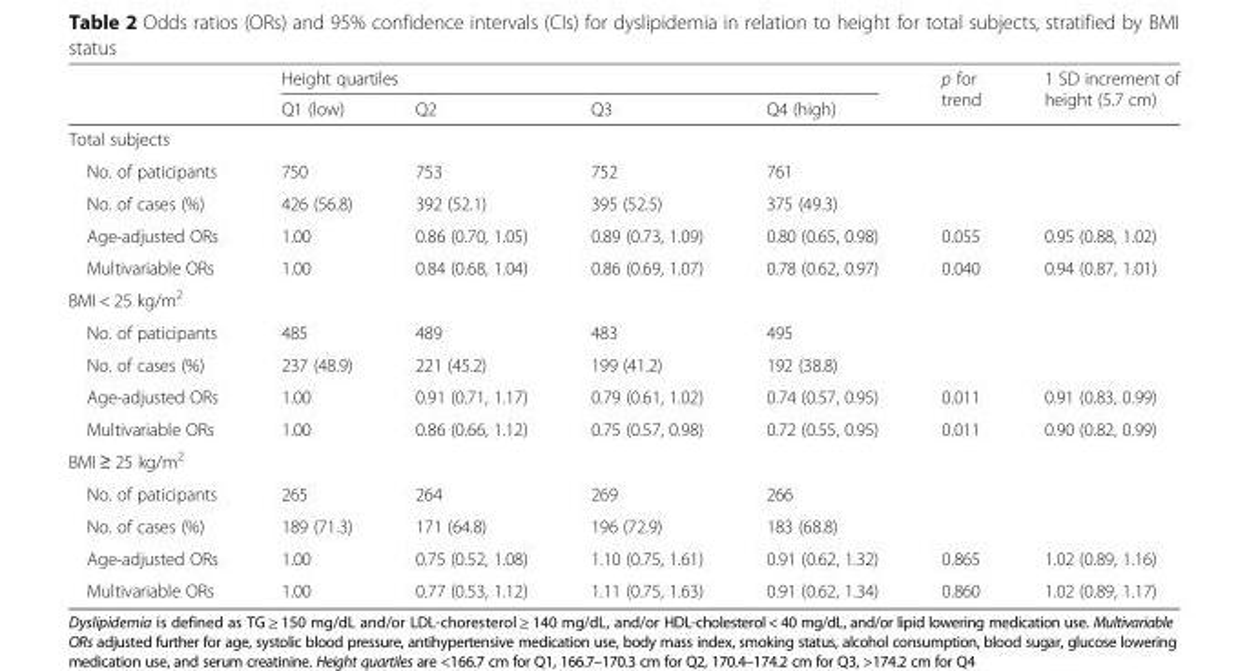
<table><thead><tr><td rowspan="2"></td><td colspan="4">Height quartiles</td><td rowspan="2">p for trend</td><td rowspan="2">1 SD increment of height (5.7 cm)</td></tr><tr><td>Q1 (low)</td><td>Q2</td><td>Q3</td><td>Q4 (high)</td></tr></thead><tbody><tr><td colspan="7">Total subjects</td></tr><tr><td>No. of paticipants</td><td>750</td><td>753</td><td>752</td><td>761</td><td></td><td></td></tr><tr><td>No. of cases (%)</td><td>426 (56.8)</td><td>392 (52.1)</td><td>395 (52.5)</td><td>375 (49.3)</td><td></td><td></td></tr><tr><td>Age-adjusted ORs</td><td>1.00</td><td>0.86 (0.70, 1.05)</td><td>0.89 (0.73, 1.09)</td><td>0.80 (0.65, 0.98)</td><td>0.055</td><td>0.95 (0.88, 1.02)</td></tr><tr><td>Multivariable ORs</td><td>1.00</td><td>0.84 (0.68, 1.04)</td><td>0.86 (0.69, 1.07)</td><td>0.78 (0.62, 0.97)</td><td>0.040</td><td>0.94 (0.87, 1.01)</td></tr><tr><td colspan="7">BMI &lt; 25 kg/m<sup>2</sup></td></tr><tr><td>No. of paticipants</td><td>485</td><td>489</td><td>483</td><td>495</td><td></td><td></td></tr><tr><td>No. of cases (%)</td><td>237 (48.9)</td><td>221 (45.2)</td><td>199 (41.2)</td><td>192 (38.8)</td><td></td><td></td></tr><tr><td>Age-adjusted ORs</td><td>1.00</td><td>0.91 (0.71, 1.17)</td><td>0.79 (0.61, 1.02)</td><td>0.74 (0.57, 0.95)</td><td>0.011</td><td>0.91 (0.83, 0.99)</td></tr><tr><td>Multivariable ORs</td><td>1.00</td><td>0.86 (0.66, 1.12)</td><td>0.75 (0.57, 0.98)</td><td>0.72 (0.55, 0.95)</td><td>0.011</td><td>0.90 (0.82, 0.99)</td></tr><tr><td colspan="7">BMI ≥ 25 kg/m<sup>2</sup></td></tr><tr><td>No. of paticipants</td><td>265</td><td>264</td><td>269</td><td>266</td><td></td><td></td></tr><tr><td>No. of cases (%)</td><td>189 (71.3)</td><td>171 (64.8)</td><td>196 (72.9)</td><td>183 (68.8)</td><td></td><td></td></tr><tr><td>Age-adjusted ORs</td><td>1.00</td><td>0.75 (0.52, 1.08)</td><td>1.10 (0.75, 1.61)</td><td>0.91 (0.62, 1.32)</td><td>0.865</td><td>1.02 (0.89, 1.16)</td></tr><tr><td>Multivariable ORs</td><td>1.00</td><td>0.77 (0.53, 1.12)</td><td>1.11 (0.75, 1.63)</td><td>0.91 (0.62, 1.34)</td><td>0.860</td><td>1.02 (0.89, 1.17)</td></tr></tbody></table>